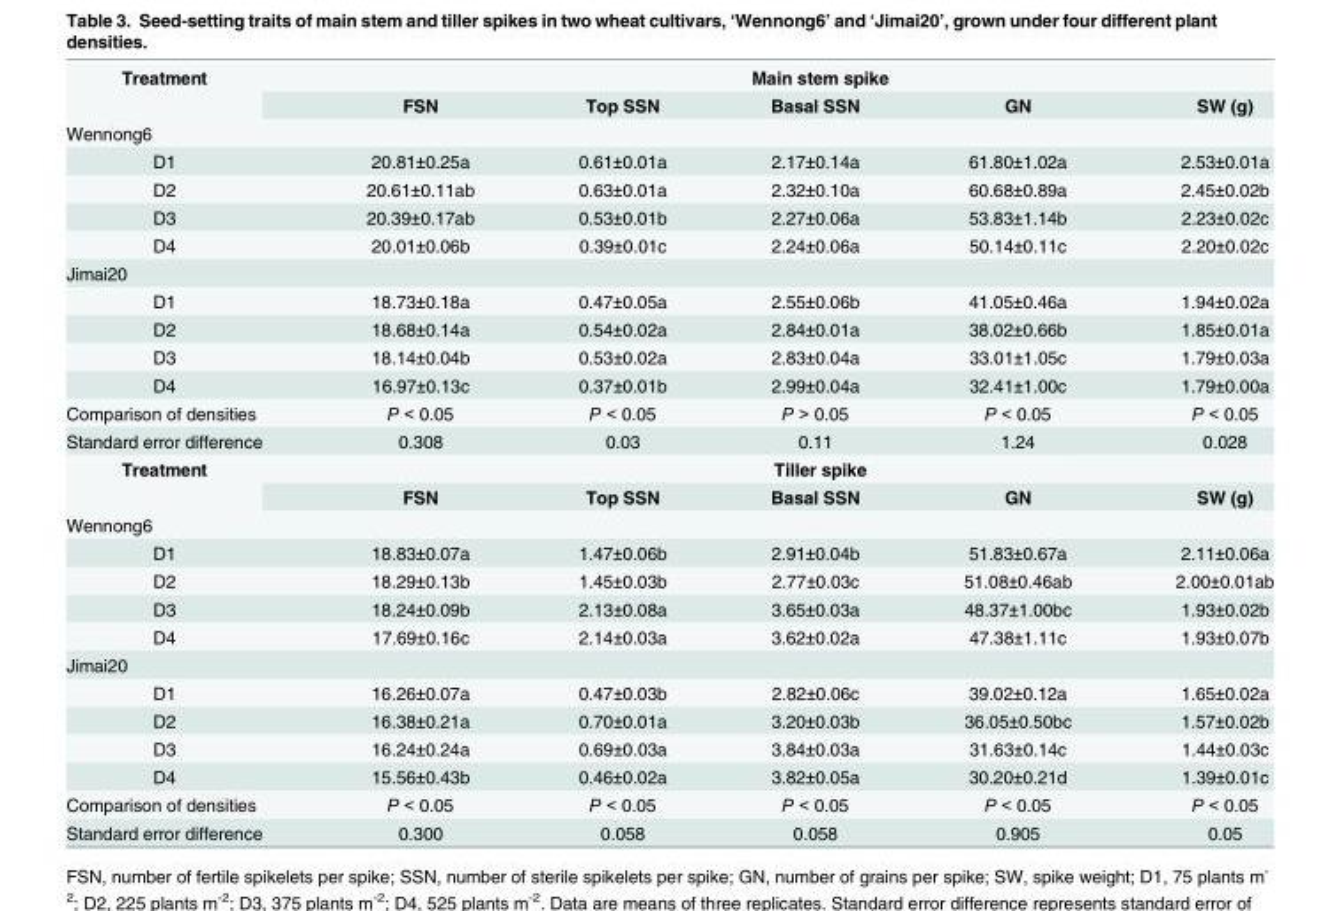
<table><tbody><tr><td rowspan="2">Treatment</td><td colspan="5">Main stem spike</td></tr><tr><td>FSN</td><td>Top SSN</td><td>Basal SSN</td><td>GN</td><td>SW (g)</td></tr><tr><td colspan="6">Wennong6</td></tr><tr><td>D1</td><td>20.81±0.25a</td><td>0.61±0.01a</td><td>2.17±0.14a</td><td>61.80±1.02a</td><td>2.53±0.01a</td></tr><tr><td>D2</td><td>20.61±0.11ab</td><td>0.63±0.01a</td><td>2.32±0.10a</td><td>60.68±0.89a</td><td>2.45±0.02b</td></tr><tr><td>D3</td><td>20.39±0.17ab</td><td>0.53±0.01b</td><td>2.27±0.06a</td><td>53.83±1.14b</td><td>2.23±0.02c</td></tr><tr><td>D4</td><td>20.01±0.06b</td><td>0.39±0.01c</td><td>2.24±0.06a</td><td>50.14±0.11c</td><td>2.20±0.02c</td></tr><tr><td colspan="6">Jimai20</td></tr><tr><td>D1</td><td>18.73±0.18a</td><td>0.47±0.05a</td><td>2.55±0.06b</td><td>41.05±0.46a</td><td>1.94±0.02a</td></tr><tr><td>D2</td><td>18.68±0.14a</td><td>0.54±0.02a</td><td>2.84±0.01a</td><td>38.02±0.66b</td><td>1.85±0.01a</td></tr><tr><td>D3</td><td>18.14±0.04b</td><td>0.53±0.02a</td><td>2.83±0.04a</td><td>33.01±1.05c</td><td>1.79±0.03a</td></tr><tr><td>D4</td><td>16.97±0.13c</td><td>0.37±0.01b</td><td>2.99±0.04a</td><td>32.41±1.00c</td><td>1.79±0.00a</td></tr><tr><td>Comparison of densities</td><td>P &lt; 0.05</td><td>P &lt; 0.05</td><td>P &gt; 0.05</td><td>P &lt; 0.05</td><td>P &lt; 0.05</td></tr><tr><td>Standard error difference</td><td>0.308</td><td>0.03</td><td>0.11</td><td>1.24</td><td>0.028</td></tr><tr><td rowspan="2">Treatment</td><td colspan="5">Tiller spike</td></tr><tr><td>FSN</td><td>Top SSN</td><td>Basal SSN</td><td>GN</td><td>SW (g)</td></tr><tr><td colspan="6">Wennong6</td></tr><tr><td>D1</td><td>18.83±0.07a</td><td>1.47±0.06b</td><td>2.91±0.04b</td><td>51.83±0.67a</td><td>2.11±0.06a</td></tr><tr><td>D2</td><td>18.29±0.13b</td><td>1.45±0.03b</td><td>2.77±0.03c</td><td>51.08±0.46ab</td><td>2.00±0.01ab</td></tr><tr><td>D3</td><td>18.24±0.09b</td><td>2.13±0.08a</td><td>3.65±0.03a</td><td>48.37±1.00bc</td><td>1.93±0.02b</td></tr><tr><td>D4</td><td>17.69±0.16c</td><td>2.14±0.03a</td><td>3.62±0.02a</td><td>47.38±1.11c</td><td>1.93±0.07b</td></tr><tr><td colspan="6">Jimai20</td></tr><tr><td>D1</td><td>16.26±0.07a</td><td>0.47±0.03b</td><td>2.82±0.06c</td><td>39.02±0.12a</td><td>1.65±0.02a</td></tr><tr><td>D2</td><td>16.38±0.21a</td><td>0.70±0.01a</td><td>3.20±0.03b</td><td>36.05±0.50bc</td><td>1.57±0.02b</td></tr><tr><td>D3</td><td>16.24±0.24a</td><td>0.69±0.03a</td><td>3.84±0.03a</td><td>31.63±0.14c</td><td>1.44±0.03c</td></tr><tr><td>D4</td><td>15.56±0.43b</td><td>0.46±0.02a</td><td>3.82±0.05a</td><td>30.20±0.21d</td><td>1.39±0.01c</td></tr><tr><td>Comparison of densities</td><td>P &lt; 0.05</td><td>P &lt; 0.05</td><td>P &lt; 0.05</td><td>P &lt; 0.05</td><td>P &lt; 0.05</td></tr><tr><td>Standard error difference</td><td>0.300</td><td>0.058</td><td>0.058</td><td>0.905</td><td>0.05</td></tr></tbody></table>